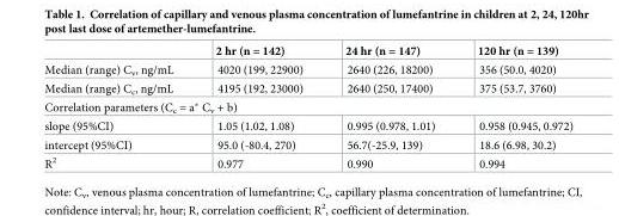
<table><thead><tr><td></td><td>2 hr (n = 142)</td><td>24 hr (n = 147)</td><td>120 hr (n = 139)</td></tr></thead><tbody><tr><td>Median (range) C<sub>v</sub>, ng/mL</td><td>4020 (199, 22900)</td><td>2640 (226, 18200)</td><td>356 (50.0, 4020)</td></tr><tr><td>Median (range) C<sub>c</sub>, ng/mL</td><td>4195 (192, 23000)</td><td>2640 (250, 17400)</td><td>375 (53.7, 3760)</td></tr><tr><td colspan="4">Correlation parameters (C<sub>c</sub> = a* C<sub>v</sub> + b)</td></tr><tr><td>slope (95%CI)</td><td>1.05 (1.02, 1.08)</td><td>0.995 (0.978, 1.01)</td><td>0.958 (0.945, 0.972)</td></tr><tr><td>intercept (95%CI)</td><td>95.0 (-80.4, 270)</td><td>56.7(-25.9, 139)</td><td>18.6 (6.98, 30.2)</td></tr><tr><td>R<sup>2</sup></td><td>0.977</td><td>0.990</td><td>0.994</td></tr></tbody></table>